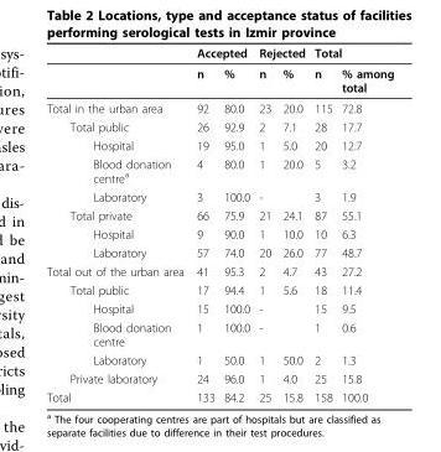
<table><thead><tr><td rowspan="2"></td><td colspan="2">Accepted</td><td colspan="2">Rejected</td><td colspan="2">Total</td></tr><tr><td>n</td><td>%</td><td>n</td><td>%</td><td>n</td><td>% among total</td></tr></thead><tbody><tr><td>Total in the urban area</td><td>92</td><td>80.0</td><td>23</td><td>20.0</td><td>115</td><td>72.8</td></tr><tr><td>Total public</td><td>26</td><td>92.9</td><td>2</td><td>7.1</td><td>28</td><td>17.7</td></tr><tr><td>Hospital</td><td>19</td><td>95.0</td><td>1</td><td>5.0</td><td>20</td><td>12.7</td></tr><tr><td>Blood donation centre<sup>a</sup></td><td>4</td><td>80.0</td><td>1</td><td>20.0</td><td>5</td><td>3.2</td></tr><tr><td>Laboratory</td><td>3</td><td>100.0</td><td>-</td><td></td><td>3</td><td>1.9</td></tr><tr><td>Total private</td><td>66</td><td>75.9</td><td>21</td><td>24.1</td><td>87</td><td>55.1</td></tr><tr><td>Hospital</td><td>9</td><td>90.0</td><td>1</td><td>10.0</td><td>10</td><td>6.3</td></tr><tr><td>Laboratory</td><td>57</td><td>74.0</td><td>20</td><td>26.0</td><td>77</td><td>48.7</td></tr><tr><td>Total out of the urban area</td><td>41</td><td>95.3</td><td>2</td><td>4.7</td><td>43</td><td>27.2</td></tr><tr><td>Total public</td><td>17</td><td>94.4</td><td>1</td><td>5.6</td><td>18</td><td>11.4</td></tr><tr><td>Hospital</td><td>15</td><td>100.0</td><td>-</td><td></td><td>15</td><td>9.5</td></tr><tr><td>Blood donation centre</td><td>1</td><td>100.0</td><td>-</td><td></td><td>1</td><td>0.6</td></tr><tr><td>Laboratory</td><td>1</td><td>50.0</td><td>1</td><td>50.0</td><td>2</td><td>1.3</td></tr><tr><td>Private laboratory</td><td>24</td><td>96.0</td><td>1</td><td>4.0</td><td>25</td><td>15.8</td></tr><tr><td>Total</td><td>133</td><td>84.2</td><td>25</td><td>15.8</td><td>158</td><td>100.0</td></tr></tbody></table>